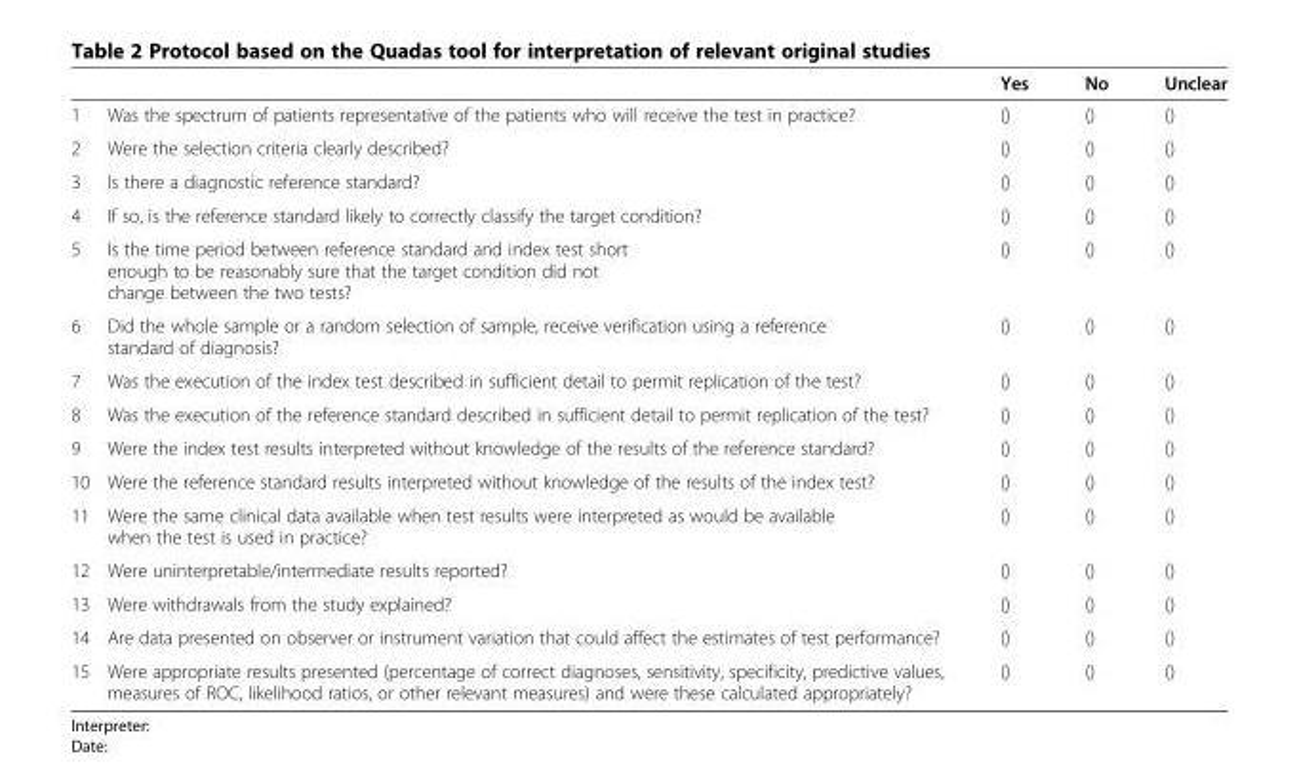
<table><thead><tr><td></td><td></td><td>Yes</td><td>No</td><td>Unclear</td></tr></thead><tbody><tr><td>1</td><td>Was the spectrum of patients representative of the patients who will receive the test in practice?</td><td>()</td><td>()</td><td>()</td></tr><tr><td>2</td><td>Were the selection criteria clearly described?</td><td>()</td><td>()</td><td>()</td></tr><tr><td>3</td><td>Is there a diagnostic reference standard?</td><td>()</td><td>()</td><td>()</td></tr><tr><td>4</td><td>If so, is the reference standard likely to correctly classify the target condition?</td><td>()</td><td>()</td><td>()</td></tr><tr><td>5</td><td>Is the time period between reference standard and index test short enough to be reasonably sure that the target condition did not change between the two tests?</td><td>()</td><td>()</td><td>()</td></tr><tr><td>6</td><td>Did the whole sample or a random selection of sample, receive verification using a reference standard of diagnosis?</td><td>()</td><td>()</td><td>()</td></tr><tr><td>7</td><td>Was the execution of the index test described in sufficient detail to permit replication of the test?</td><td>()</td><td>()</td><td>()</td></tr><tr><td>8</td><td>Was the execution of the reference standard described in sufficient detail to permit replication of the test?</td><td>()</td><td>()</td><td>()</td></tr><tr><td>9</td><td>Were the index test results interpreted without knowledge of the results of the reference standard?</td><td>()</td><td>()</td><td>()</td></tr><tr><td>10</td><td>Were the reference standard results interpreted without knowledge of the results of the index test?</td><td>()</td><td>()</td><td>()</td></tr><tr><td>11</td><td>Were the same clinical data available when test results were interpreted as would be available when the test is used in practice?</td><td>()</td><td>()</td><td>()</td></tr><tr><td>12</td><td>Were uninterpretable/intermediate results reported?</td><td>()</td><td>()</td><td>()</td></tr><tr><td>13</td><td>Were withdrawals from the study explained?</td><td>()</td><td>()</td><td>()</td></tr><tr><td>14</td><td>Are data presented on observer or instrument variation that could affect the estimates of test performance?</td><td>()</td><td>()</td><td>()</td></tr><tr><td>15</td><td>Were appropriate results presented (percentage of correct diagnoses, sensitivity, specificity, predictive values, measures of ROC, likelihood ratios, or other relevant measures) and were these calculated appropriately?</td><td>()</td><td>()</td><td>()</td></tr></tbody></table>